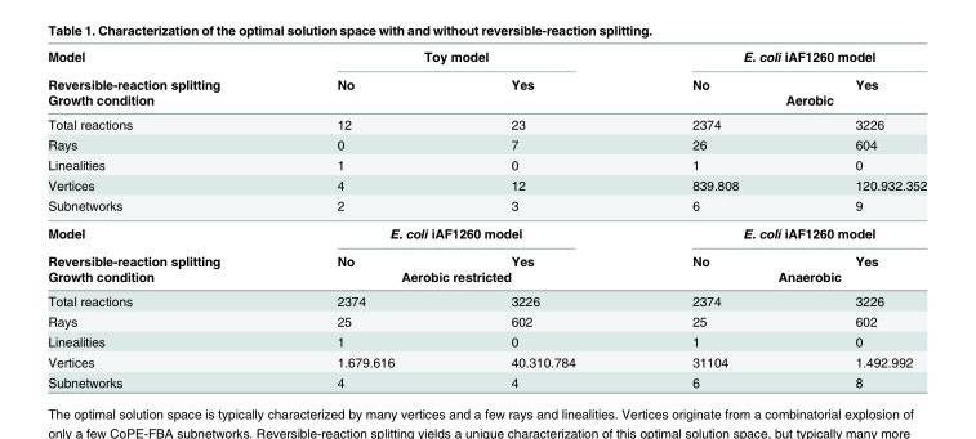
<table><thead><tr><td rowspan="3">Model Reversible-reaction splitting Growth condition</td><td colspan="2">Toy model</td><td colspan="2">E. coli iAF1260 model</td></tr><tr><td rowspan="2">No</td><td rowspan="2">Yes</td><td>No</td><td>Yes</td></tr><tr><td colspan="2">Aerobic</td></tr></thead><tbody><tr><td>Total reactions</td><td>12</td><td>23</td><td>2374</td><td>3226</td></tr><tr><td>Rays</td><td>0</td><td>7</td><td>26</td><td>604</td></tr><tr><td>Linealities</td><td>1</td><td>0</td><td>1</td><td>0</td></tr><tr><td>Vertices</td><td>4</td><td>12</td><td>839.808</td><td>120.932.352</td></tr><tr><td>Subnetworks</td><td>2</td><td>3</td><td>6</td><td>9</td></tr><tr><td>Model</td><td colspan="2">E. coli iAF1260 model</td><td colspan="2">E. coli iAF1260 model</td></tr><tr><td>Reversible-reaction splitting</td><td>No</td><td>Yes</td><td>No</td><td>Yes</td></tr><tr><td>Growth condition</td><td colspan="2">Aerobic restricted</td><td colspan="2">Anaerobic</td></tr><tr><td>Total reactions</td><td>2374</td><td>3226</td><td>2374</td><td>3226</td></tr><tr><td>Rays</td><td>25</td><td>602</td><td>25</td><td>602</td></tr><tr><td>Linealities</td><td>1</td><td>0</td><td>1</td><td>0</td></tr><tr><td>Vertices</td><td>1.679.616</td><td>40.310.784</td><td>31104</td><td>1.492.992</td></tr><tr><td>Subnetworks</td><td>4</td><td>4</td><td>6</td><td>8</td></tr></tbody></table>